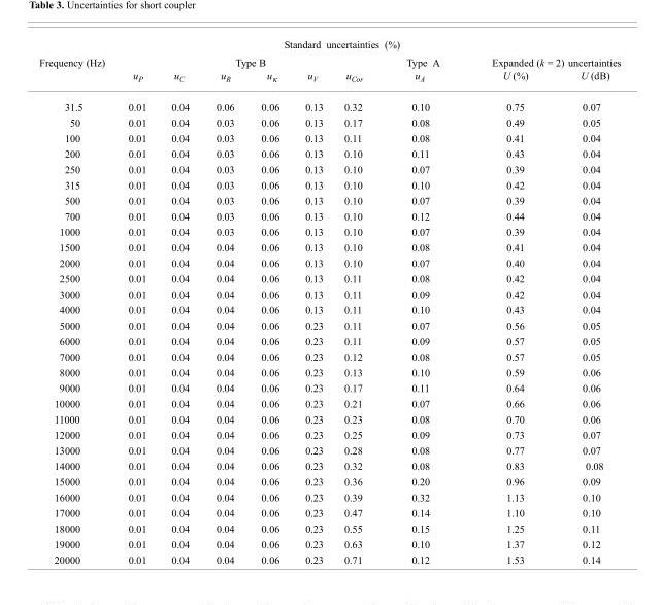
<table><thead><tr><td colspan="10">Standard uncertainties (%)</td></tr><tr><td rowspan="2">Frequency (Hz)</td><td colspan="6">Type B</td><td rowspan="2">Type A u<sub>A</sub></td><td colspan="2">Expanded (k = 2) uncertainties</td></tr><tr><td>u<sub>P</sub></td><td>u<sub>C</sub></td><td>u<sub>R</sub></td><td>u<sub>κ</sub></td><td>u<sub>V</sub></td><td>u<sub>Cor</sub></td><td>U (%)</td><td>U (dB)</td></tr></thead><tbody><tr><td>31.5</td><td>0.01</td><td>0.04</td><td>0.06</td><td>0.06</td><td>0.13</td><td>0.32</td><td>0.10</td><td>0.75</td><td>0.07</td></tr><tr><td>50</td><td>0.01</td><td>0.04</td><td>0.03</td><td>0.06</td><td>0.13</td><td>0.17</td><td>0.08</td><td>0.49</td><td>0.05</td></tr><tr><td>100</td><td>0.01</td><td>0.04</td><td>0.03</td><td>0.06</td><td>0.13</td><td>0.11</td><td>0.08</td><td>0.41</td><td>0.04</td></tr><tr><td>200</td><td>0.01</td><td>0.04</td><td>0.03</td><td>0.06</td><td>0.13</td><td>0.10</td><td>0.11</td><td>0.43</td><td>0.04</td></tr><tr><td>250</td><td>0.01</td><td>0.04</td><td>0.03</td><td>0.06</td><td>0.13</td><td>0.10</td><td>0.07</td><td>0.39</td><td>0.04</td></tr><tr><td>315</td><td>0.01</td><td>0.04</td><td>0.03</td><td>0.06</td><td>0.13</td><td>0.10</td><td>0.10</td><td>0.42</td><td>0.04</td></tr><tr><td>500</td><td>0.01</td><td>0.04</td><td>0.03</td><td>0.06</td><td>0.13</td><td>0.10</td><td>0.07</td><td>0.39</td><td>0.04</td></tr><tr><td>700</td><td>0.01</td><td>0.04</td><td>0.03</td><td>0.06</td><td>0.13</td><td>0.10</td><td>0.12</td><td>0.44</td><td>0.04</td></tr><tr><td>1000</td><td>0.01</td><td>0.04</td><td>0.03</td><td>0.06</td><td>0.13</td><td>0.10</td><td>0.07</td><td>0.39</td><td>0.04</td></tr><tr><td>1500</td><td>0.01</td><td>0.04</td><td>0.04</td><td>0.06</td><td>0.13</td><td>0.10</td><td>0.08</td><td>0.41</td><td>0.04</td></tr><tr><td>2000</td><td>0.01</td><td>0.04</td><td>0.04</td><td>0.06</td><td>0.13</td><td>0.10</td><td>0.07</td><td>0.40</td><td>0.04</td></tr><tr><td>2500</td><td>0.01</td><td>0.04</td><td>0.04</td><td>0.06</td><td>0.13</td><td>0.11</td><td>0.08</td><td>0.42</td><td>0.04</td></tr><tr><td>3000</td><td>0.01</td><td>0.04</td><td>0.04</td><td>0.06</td><td>0.13</td><td>0.11</td><td>0.09</td><td>0.42</td><td>0.04</td></tr><tr><td>4000</td><td>0.01</td><td>0.04</td><td>0.04</td><td>0.06</td><td>0.13</td><td>0.11</td><td>0.10</td><td>0.43</td><td>0.04</td></tr><tr><td>5000</td><td>0.01</td><td>0.04</td><td>0.04</td><td>0.06</td><td>0.23</td><td>0.11</td><td>0.07</td><td>0.56</td><td>0.05</td></tr><tr><td>6000</td><td>0.01</td><td>0.04</td><td>0.04</td><td>0.06</td><td>0.23</td><td>0.11</td><td>0.09</td><td>0.57</td><td>0.05</td></tr><tr><td>7000</td><td>0.01</td><td>0.04</td><td>0.04</td><td>0.06</td><td>0.23</td><td>0.12</td><td>0.08</td><td>0.57</td><td>0.05</td></tr><tr><td>8000</td><td>0.01</td><td>0.04</td><td>0.04</td><td>0.06</td><td>0.23</td><td>0.13</td><td>0.10</td><td>0.59</td><td>0.06</td></tr><tr><td>9000</td><td>0.01</td><td>0.04</td><td>0.04</td><td>0.06</td><td>0.23</td><td>0.17</td><td>0.11</td><td>0.64</td><td>0.06</td></tr><tr><td>10000</td><td>0.01</td><td>0.04</td><td>0.04</td><td>0.06</td><td>0.23</td><td>0.21</td><td>0.07</td><td>0.66</td><td>0.06</td></tr><tr><td>11000</td><td>0.01</td><td>0.04</td><td>0.04</td><td>0.06</td><td>0.23</td><td>0.23</td><td>0.08</td><td>0.70</td><td>0.06</td></tr><tr><td>12000</td><td>0.01</td><td>0.04</td><td>0.04</td><td>0.06</td><td>0.23</td><td>0.25</td><td>0.09</td><td>0.73</td><td>0.07</td></tr><tr><td>13000</td><td>0.01</td><td>0.04</td><td>0.04</td><td>0.06</td><td>0.23</td><td>0.28</td><td>0.08</td><td>0.77</td><td>0.07</td></tr><tr><td>14000</td><td>0.01</td><td>0.04</td><td>0.04</td><td>0.06</td><td>0.23</td><td>0.32</td><td>0.08</td><td>0.83</td><td>0.08</td></tr><tr><td>15000</td><td>0.01</td><td>0.04</td><td>0.04</td><td>0.06</td><td>0.23</td><td>0.36</td><td>0.20</td><td>0.96</td><td>0.09</td></tr><tr><td>16000</td><td>0.01</td><td>0.04</td><td>0.04</td><td>0.06</td><td>0.23</td><td>0.39</td><td>0.32</td><td>1.13</td><td>0.10</td></tr><tr><td>17000</td><td>0.01</td><td>0.04</td><td>0.04</td><td>0.06</td><td>0.23</td><td>0.47</td><td>0.14</td><td>1.10</td><td>0.10</td></tr><tr><td>18000</td><td>0.01</td><td>0.04</td><td>0.04</td><td>0.06</td><td>0.23</td><td>0.55</td><td>0.15</td><td>1.25</td><td>0.11</td></tr><tr><td>19000</td><td>0.01</td><td>0.04</td><td>0.04</td><td>0.06</td><td>0.23</td><td>0.63</td><td>0.10</td><td>1.37</td><td>0.12</td></tr><tr><td>20000</td><td>0.01</td><td>0.04</td><td>0.04</td><td>0.06</td><td>0.23</td><td>0.71</td><td>0.12</td><td>1.53</td><td>0.14</td></tr></tbody></table>